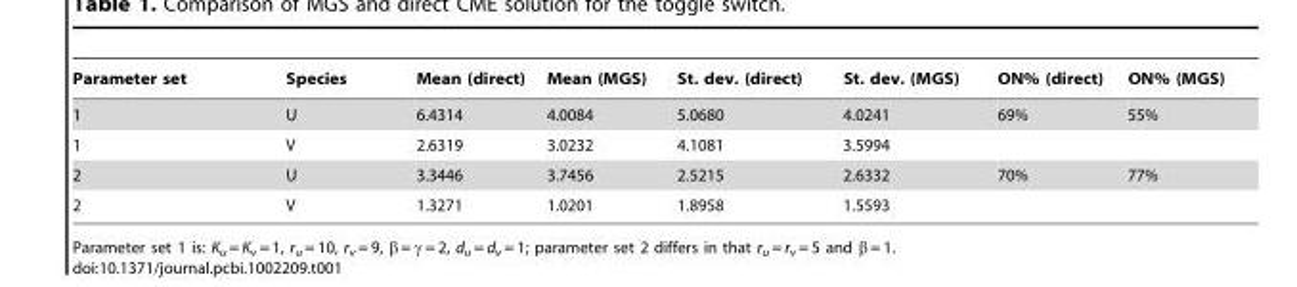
<table><thead><tr><td>Parameter set</td><td>Species</td><td>Mean (direct)</td><td>Mean (MGS)</td><td>St. dev. (direct)</td><td>St. dev. (MGS)</td><td>ON% (direct)</td><td>ON% (MGS)</td></tr></thead><tbody><tr><td>1</td><td>U</td><td>6.4314</td><td>4.0084</td><td>5.0680</td><td>4.0241</td><td>69%</td><td>55%</td></tr><tr><td>1</td><td>V</td><td>2.6319</td><td>3.0232</td><td>4.1081</td><td>3.5994</td><td></td><td></td></tr><tr><td>2</td><td>U</td><td>3.3446</td><td>3.7456</td><td>2.5215</td><td>2.6332</td><td>70%</td><td>77%</td></tr><tr><td>2</td><td>V</td><td>1.3271</td><td>1.0201</td><td>1.8958</td><td>1.5593</td><td></td><td></td></tr></tbody></table>